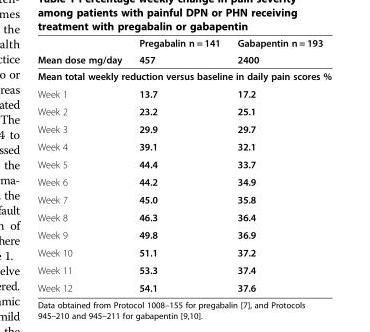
<table><thead><tr><td rowspan="2">Mean dose mg/day</td><td rowspan="2">Pregabalin n = 141 457</td><td rowspan="2">Gabapentin n = 193 2400</td></tr><tr></tr></thead><tbody><tr><td colspan="3">Mean total weekly reduction versus baseline in daily pain scores %</td></tr><tr><td>Week 1</td><td>13.7</td><td>17.2</td></tr><tr><td>Week 2</td><td>23.2</td><td>25.1</td></tr><tr><td>Week 3</td><td>29.9</td><td>29.7</td></tr><tr><td>Week 4</td><td>39.1</td><td>32.1</td></tr><tr><td>Week 5</td><td>44.4</td><td>33.7</td></tr><tr><td>Week 6</td><td>44.2</td><td>34.9</td></tr><tr><td>Week 7</td><td>45.0</td><td>35.8</td></tr><tr><td>Week 8</td><td>46.3</td><td>36.4</td></tr><tr><td>Week 9</td><td>49.8</td><td>36.9</td></tr><tr><td>Week 10</td><td>51.1</td><td>37.2</td></tr><tr><td>Week 11</td><td>53.3</td><td>37.4</td></tr><tr><td>Week 12</td><td>54.1</td><td>37.6</td></tr></tbody></table>